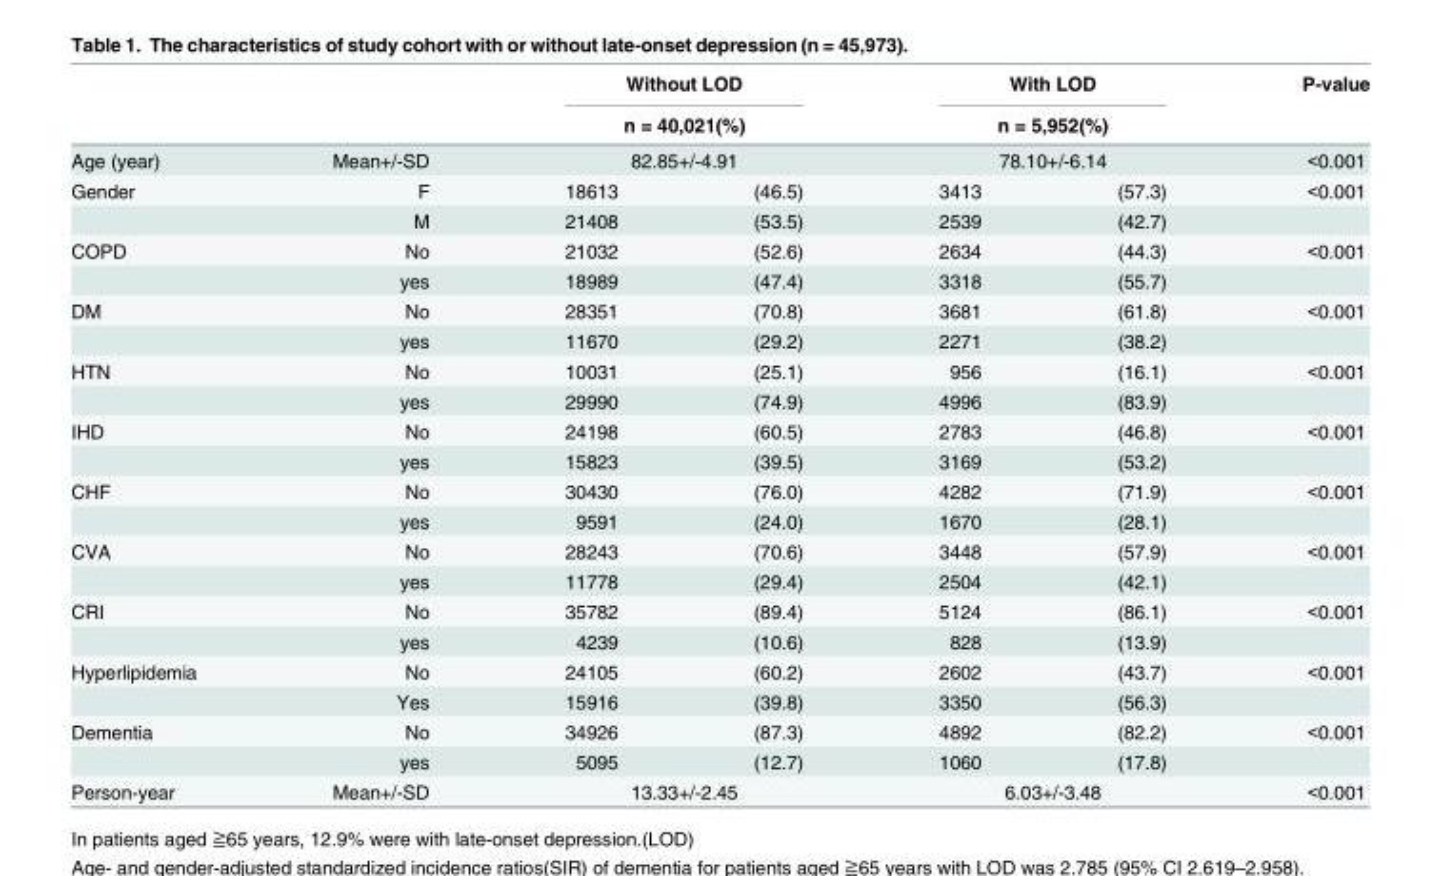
<table><thead><tr><td rowspan="4">Age (year) Gender</td><td rowspan="4">Mean+/-SD F</td><td rowspan="3" colspan="2">Without LOD n = 40,021(%) 82.85+/-4.91</td><td rowspan="3" colspan="2">With LOD n = 5,952(%) 78.10+/-6.14</td><td rowspan="4">P-value &lt;0.001 &lt;0.001</td></tr><tr></tr><tr></tr><tr><td>18613</td><td>(46.5)</td><td>3413</td><td>(57.3)</td></tr></thead><tbody><tr><td></td><td>M</td><td>21408</td><td>(53.5)</td><td>2539</td><td>(42.7)</td><td></td></tr><tr><td rowspan="2">COPD</td><td>No</td><td>21032</td><td>(52.6)</td><td>2634</td><td>(44.3)</td><td>&lt;0.001</td></tr><tr><td>yes</td><td>18989</td><td>(47.4)</td><td>3318</td><td>(55.7)</td><td></td></tr><tr><td rowspan="2">DM</td><td>No</td><td>28351</td><td>(70.8)</td><td>3681</td><td>(61.8)</td><td>&lt;0.001</td></tr><tr><td>yes</td><td>11670</td><td>(29.2)</td><td>2271</td><td>(38.2)</td><td></td></tr><tr><td rowspan="2">HTN</td><td>No</td><td>10031</td><td>(25.1)</td><td>956</td><td>(16.1)</td><td>&lt;0.001</td></tr><tr><td>yes</td><td>29990</td><td>(74.9)</td><td>4996</td><td>(83.9)</td><td></td></tr><tr><td rowspan="2">IHD</td><td>No</td><td>24198</td><td>(60.5)</td><td>2783</td><td>(46.8)</td><td>&lt;0.001</td></tr><tr><td>yes</td><td>15823</td><td>(39.5)</td><td>3169</td><td>(53.2)</td><td></td></tr><tr><td rowspan="2">CHF</td><td>No</td><td>30430</td><td>(76.0)</td><td>4282</td><td>(71.9)</td><td>&lt;0.001</td></tr><tr><td>yes</td><td>9591</td><td>(24.0)</td><td>1670</td><td>(28.1)</td><td></td></tr><tr><td rowspan="2">CVA</td><td>No</td><td>28243</td><td>(70.6)</td><td>3448</td><td>(57.9)</td><td>&lt;0.001</td></tr><tr><td>yes</td><td>11778</td><td>(29.4)</td><td>2504</td><td>(42.1)</td><td></td></tr><tr><td rowspan="2">CRI</td><td>No</td><td>35782</td><td>(89.4)</td><td>5124</td><td>(86.1)</td><td>&lt;0.001</td></tr><tr><td>yes</td><td>4239</td><td>(10.6)</td><td>828</td><td>(13.9)</td><td></td></tr><tr><td rowspan="2">Hyperlipidemia</td><td>No</td><td>24105</td><td>(60.2)</td><td>2602</td><td>(43.7)</td><td>&lt;0.001</td></tr><tr><td>Yes</td><td>15916</td><td>(39.8)</td><td>3350</td><td>(56.3)</td><td></td></tr><tr><td rowspan="2">Dementia</td><td>No</td><td>34926</td><td>(87.3)</td><td>4892</td><td>(82.2)</td><td>&lt;0.001</td></tr><tr><td>yes</td><td>5095</td><td>(12.7)</td><td>1060</td><td>(17.8)</td><td></td></tr><tr><td>Person-year</td><td>Mean+/-SD</td><td colspan="2">13.33+/-2.45</td><td colspan="2">6.03+/-3.48</td><td>&lt;0.001</td></tr></tbody></table>